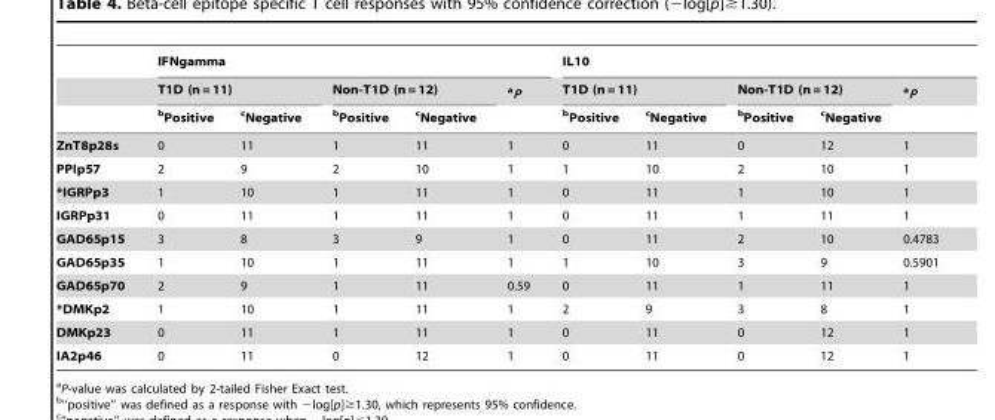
<table><thead><tr><td rowspan="3"></td><td colspan="5">IFNgamma</td><td colspan="5">IL10</td></tr><tr><td colspan="2">T1D (n = 11)</td><td colspan="2">Non-T1D (n = 12)</td><td rowspan="2">aP</td><td colspan="2">T1D (n = 11)</td><td colspan="2">Non-T1D (n = 12)</td><td rowspan="2">aP</td></tr><tr><td>bPositive</td><td>cNegative</td><td>bPositive</td><td>cNegative</td><td>bPositive</td><td>cNegative</td><td>bPositive</td><td>cNegative</td></tr></thead><tbody><tr><td>ZnT8p28s</td><td>0</td><td>11</td><td>1</td><td>11</td><td>1</td><td>0</td><td>11</td><td>0</td><td>12</td><td>1</td></tr><tr><td>PPIp57</td><td>2</td><td>9</td><td>2</td><td>10</td><td>1</td><td>1</td><td>10</td><td>2</td><td>10</td><td>1</td></tr><tr><td>*IGRPp3</td><td>1</td><td>10</td><td>1</td><td>11</td><td>1</td><td>0</td><td>11</td><td>1</td><td>10</td><td>1</td></tr><tr><td>IGRPp31</td><td>0</td><td>11</td><td>1</td><td>11</td><td>1</td><td>0</td><td>11</td><td>1</td><td>11</td><td>1</td></tr><tr><td>GAD65p15</td><td>3</td><td>8</td><td>3</td><td>9</td><td>1</td><td>0</td><td>11</td><td>2</td><td>10</td><td>0.4783</td></tr><tr><td>GAD65p35</td><td>1</td><td>10</td><td>1</td><td>11</td><td>1</td><td>1</td><td>10</td><td>3</td><td>9</td><td>0.5901</td></tr><tr><td>GAD65p70</td><td>2</td><td>9</td><td>1</td><td>11</td><td>0.59</td><td>0</td><td>11</td><td>1</td><td>11</td><td>1</td></tr><tr><td>*DMKp2</td><td>1</td><td>10</td><td>1</td><td>11</td><td>1</td><td>2</td><td>9</td><td>3</td><td>8</td><td>1</td></tr><tr><td>DMKp23</td><td>0</td><td>11</td><td>1</td><td>11</td><td>1</td><td>0</td><td>11</td><td>0</td><td>12</td><td>1</td></tr><tr><td>IA2p46</td><td>0</td><td>11</td><td>0</td><td>12</td><td>1</td><td>0</td><td>11</td><td>0</td><td>12</td><td>1</td></tr></tbody></table>